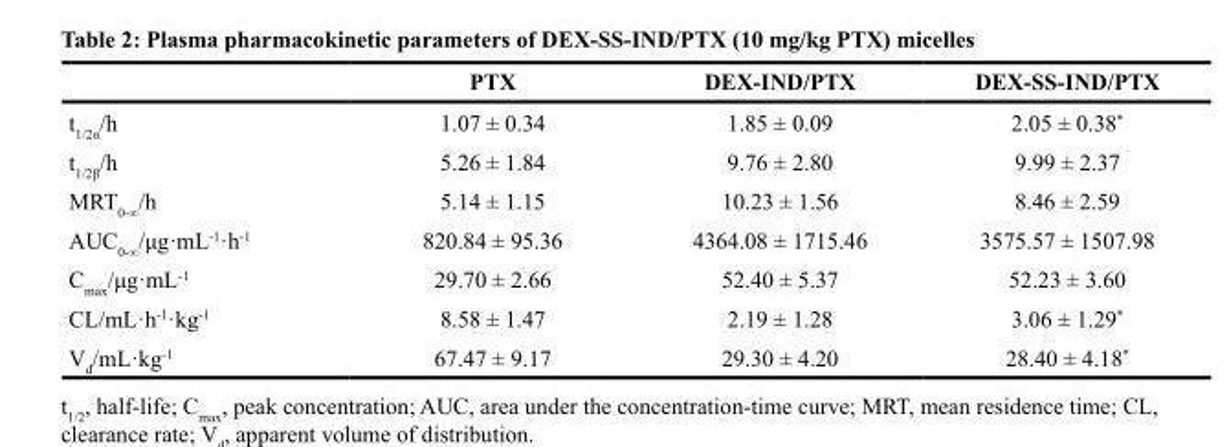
<table><thead><tr><td></td><td>PTX</td><td>DEX-IND/PTX</td><td>DEX-SS-IND/PTX</td></tr></thead><tbody><tr><td>t1/2α/h</td><td>1.07 ± 0.34</td><td>1.85 ± 0.09</td><td>2.05 ± 0.38*</td></tr><tr><td>t1/2β/h</td><td>5.26 ± 1.84</td><td>9.76 ± 2.80</td><td>9.99 ± 2.37</td></tr><tr><td>MRT0-∞/h</td><td>5.14 ± 1.15</td><td>10.23 ± 1.56</td><td>8.46 ± 2.59</td></tr><tr><td>AUC0-∞/μg·mL-1·h-1</td><td>820.84 ± 95.36</td><td>4364.08 ± 1715.46</td><td>3575.57 ± 1507.98</td></tr><tr><td>Cmax/μg·mL-1</td><td>29.70 ± 2.66</td><td>52.40 ± 5.37</td><td>52.23 ± 3.60</td></tr><tr><td>CL/mL·h-1·kg-1</td><td>8.58 ± 1.47</td><td>2.19 ± 1.28</td><td>3.06 ± 1.29*</td></tr><tr><td>Vd/mL·kg-1</td><td>67.47 ± 9.17</td><td>29.30 ± 4.20</td><td>28.40 ± 4.18*</td></tr></tbody></table>